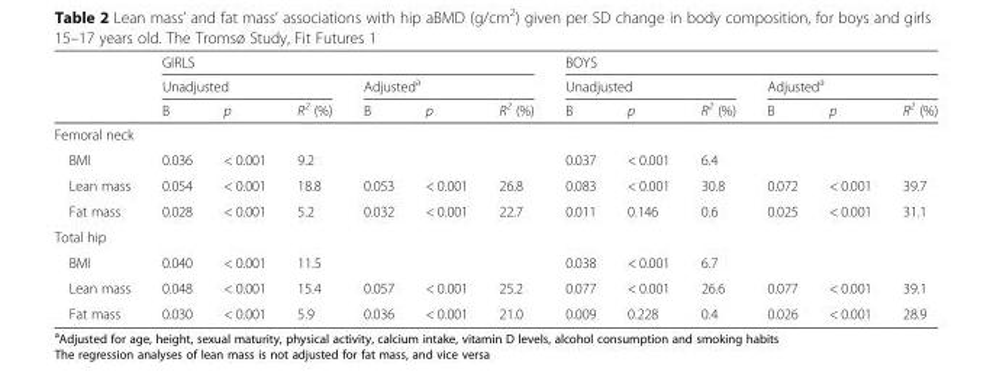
<table><thead><tr><td rowspan="3"></td><td colspan="6">GIRLS</td><td colspan="6">BOYS</td></tr><tr><td colspan="3">Unadjusted</td><td colspan="3">Adjusted<sup>a</sup></td><td colspan="3">Unadjusted</td><td colspan="3">Adjusted<sup>a</sup></td></tr><tr><td>B</td><td>p</td><td>R<sup>2</sup> (%)</td><td>B</td><td>p</td><td>R<sup>2</sup> (%)</td><td>B</td><td>p</td><td>R<sup>2</sup> (%)</td><td>B</td><td>p</td><td>R<sup>2</sup> (%)</td></tr></thead><tbody><tr><td colspan="13">Femoral neck</td></tr><tr><td>BMI</td><td>0.036</td><td>&lt; 0.001</td><td>9.2</td><td></td><td></td><td></td><td>0.037</td><td>&lt; 0.001</td><td>6.4</td><td></td><td></td><td></td></tr><tr><td>Lean mass</td><td>0.054</td><td>&lt; 0.001</td><td>18.8</td><td>0.053</td><td>&lt; 0.001</td><td>26.8</td><td>0.083</td><td>&lt; 0.001</td><td>30.8</td><td>0.072</td><td>&lt; 0.001</td><td>39.7</td></tr><tr><td>Fat mass</td><td>0.028</td><td>&lt; 0.001</td><td>5.2</td><td>0.032</td><td>&lt; 0.001</td><td>22.7</td><td>0.011</td><td>0.146</td><td>0.6</td><td>0.025</td><td>&lt; 0.001</td><td>31.1</td></tr><tr><td colspan="13">Total hip</td></tr><tr><td>BMI</td><td>0.040</td><td>&lt; 0.001</td><td>11.5</td><td></td><td></td><td></td><td>0.038</td><td>&lt; 0.001</td><td>6.7</td><td></td><td></td><td></td></tr><tr><td>Lean mass</td><td>0.048</td><td>&lt; 0.001</td><td>15.4</td><td>0.057</td><td>&lt; 0.001</td><td>25.2</td><td>0.077</td><td>&lt; 0.001</td><td>26.6</td><td>0.077</td><td>&lt; 0.001</td><td>39.1</td></tr><tr><td>Fat mass</td><td>0.030</td><td>&lt; 0.001</td><td>5.9</td><td>0.036</td><td>&lt; 0.001</td><td>21.0</td><td>0.009</td><td>0.228</td><td>0.4</td><td>0.026</td><td>&lt; 0.001</td><td>28.9</td></tr></tbody></table>